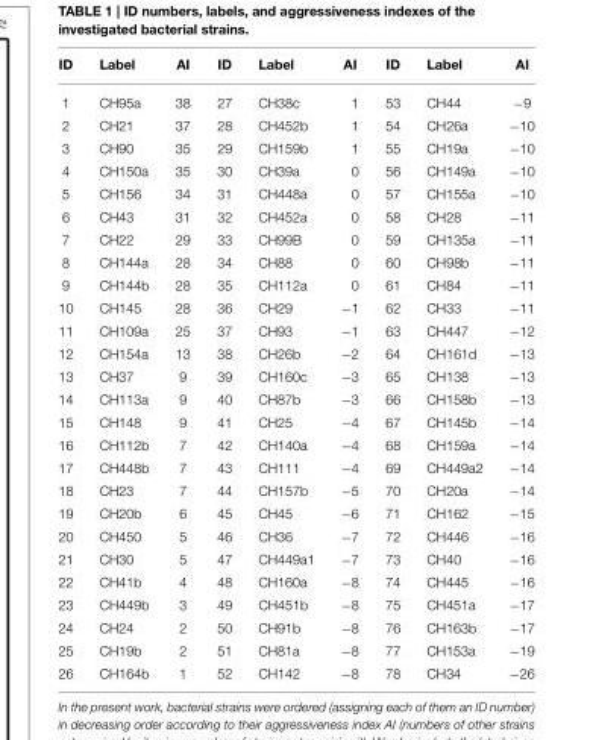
<table><thead><tr><td>ID</td><td>Label</td><td>AI</td><td>ID</td><td>Label</td><td>AI</td><td>ID</td><td>Label</td><td>AI</td></tr></thead><tbody><tr><td>1</td><td>CH95a</td><td>38</td><td>27</td><td>CH38c</td><td>1</td><td>53</td><td>CH44</td><td>−9</td></tr><tr><td>2</td><td>CH21</td><td>37</td><td>28</td><td>CH452b</td><td>1</td><td>54</td><td>CH26a</td><td>−10</td></tr><tr><td>3</td><td>CH90</td><td>35</td><td>29</td><td>CH159b</td><td>1</td><td>55</td><td>CH19a</td><td>−10</td></tr><tr><td>4</td><td>CH150a</td><td>35</td><td>30</td><td>CH39a</td><td>0</td><td>56</td><td>CH149a</td><td>−10</td></tr><tr><td>5</td><td>CH156</td><td>34</td><td>31</td><td>CH448a</td><td>0</td><td>57</td><td>CH155a</td><td>−10</td></tr><tr><td>6</td><td>CH43</td><td>31</td><td>32</td><td>CH452a</td><td>0</td><td>58</td><td>CH28</td><td>−11</td></tr><tr><td>7</td><td>CH22</td><td>29</td><td>33</td><td>CH99B</td><td>0</td><td>59</td><td>CH135a</td><td>−11</td></tr><tr><td>8</td><td>CH144a</td><td>28</td><td>34</td><td>CH88</td><td>0</td><td>60</td><td>CH98b</td><td>−11</td></tr><tr><td>9</td><td>CH144b</td><td>28</td><td>35</td><td>CH112a</td><td>0</td><td>61</td><td>CH84</td><td>−11</td></tr><tr><td>10</td><td>CH145</td><td>28</td><td>36</td><td>CH29</td><td>−1</td><td>62</td><td>CH33</td><td>−11</td></tr><tr><td>11</td><td>CH109a</td><td>25</td><td>37</td><td>CH93</td><td>−1</td><td>63</td><td>CH447</td><td>−12</td></tr><tr><td>12</td><td>CH154a</td><td>13</td><td>38</td><td>CH26b</td><td>−2</td><td>64</td><td>CH161d</td><td>−13</td></tr><tr><td>13</td><td>CH37</td><td>9</td><td>39</td><td>CH160c</td><td>−3</td><td>65</td><td>CH138</td><td>−13</td></tr><tr><td>14</td><td>CH113a</td><td>9</td><td>40</td><td>CH87b</td><td>−3</td><td>66</td><td>CH158b</td><td>−13</td></tr><tr><td>15</td><td>CH148</td><td>9</td><td>41</td><td>CH25</td><td>−4</td><td>67</td><td>CH145b</td><td>−14</td></tr><tr><td>16</td><td>CH112b</td><td>7</td><td>42</td><td>CH140a</td><td>−4</td><td>68</td><td>CH159a</td><td>−14</td></tr><tr><td>17</td><td>CH448b</td><td>7</td><td>43</td><td>CH111</td><td>−4</td><td>69</td><td>CH449a2</td><td>−14</td></tr><tr><td>18</td><td>CH23</td><td>7</td><td>44</td><td>CH157b</td><td>−5</td><td>70</td><td>CH20a</td><td>−14</td></tr><tr><td>19</td><td>CH20b</td><td>6</td><td>45</td><td>CH45</td><td>−6</td><td>71</td><td>CH162</td><td>−15</td></tr><tr><td>20</td><td>CH450</td><td>5</td><td>46</td><td>CH36</td><td>−7</td><td>72</td><td>CH446</td><td>−16</td></tr><tr><td>21</td><td>CH30</td><td>5</td><td>47</td><td>CH449a1</td><td>−7</td><td>73</td><td>CH40</td><td>−16</td></tr><tr><td>22</td><td>CH41b</td><td>4</td><td>48</td><td>CH160a</td><td>−8</td><td>74</td><td>CH445</td><td>−16</td></tr><tr><td>23</td><td>CH449b</td><td>3</td><td>49</td><td>CH451b</td><td>−8</td><td>75</td><td>CH451a</td><td>−17</td></tr><tr><td>24</td><td>CH24</td><td>2</td><td>50</td><td>CH91b</td><td>−8</td><td>76</td><td>CH163b</td><td>−17</td></tr><tr><td>25</td><td>CH19b</td><td>2</td><td>51</td><td>CH81a</td><td>−8</td><td>77</td><td>CH153a</td><td>−19</td></tr><tr><td>26</td><td>CH164b</td><td>1</td><td>52</td><td>CH142</td><td>−8</td><td>78</td><td>CH34</td><td>−26</td></tr></tbody></table>